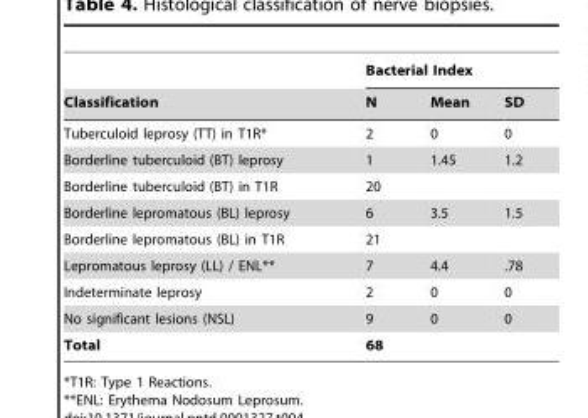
<table><thead><tr><td rowspan="2">Classification</td><td colspan="3">Bacterial Index</td></tr><tr><td>N</td><td>Mean</td><td>SD</td></tr></thead><tbody><tr><td>Tuberculoid leprosy (TT) in T1R*</td><td>2</td><td>0</td><td>0</td></tr><tr><td>Borderline tuberculoid (BT) leprosy</td><td>1</td><td>1.45</td><td>1.2</td></tr><tr><td>Borderline tuberculoid (BT) in T1R</td><td>20</td><td></td><td></td></tr><tr><td>Borderline lepromatous (BL) leprosy</td><td>6</td><td>3.5</td><td>1.5</td></tr><tr><td>Borderline lepromatous (BL) in T1R</td><td>21</td><td></td><td></td></tr><tr><td>Lepromatous leprosy (LL) / ENL**</td><td>7</td><td>4.4</td><td>.78</td></tr><tr><td>Indeterminate leprosy</td><td>2</td><td>0</td><td>0</td></tr><tr><td>No significant lesions (NSL)</td><td>9</td><td>0</td><td>0</td></tr><tr><td>Total</td><td>68</td><td></td><td></td></tr></tbody></table>